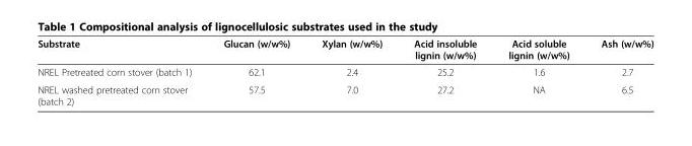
<table><thead><tr><td>Substrate</td><td>Glucan (w/w%)</td><td>Xylan (w/w%)</td><td>Acid insoluble lignin (w/w%)</td><td>Acid soluble lignin (w/w%)</td><td>Ash (w/w%)</td></tr></thead><tbody><tr><td>NREL Pretreated corn stover (batch 1)</td><td>62.1</td><td>2.4</td><td>25.2</td><td>1.6</td><td>2.7</td></tr><tr><td>NREL washed pretreated corn stover (batch 2)</td><td>57.5</td><td>7.0</td><td>27.2</td><td>NA</td><td>6.5</td></tr></tbody></table>